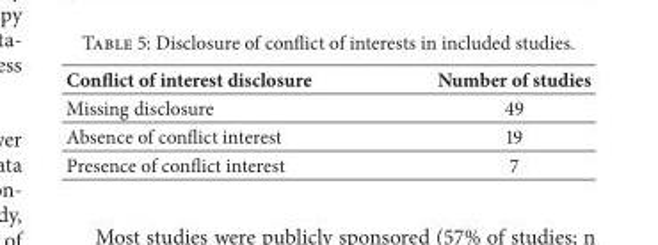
<table><thead><tr><td>Conflict of interest disclosure</td><td>Number of studies</td></tr></thead><tbody><tr><td>Missing disclosure</td><td>49</td></tr><tr><td>Absence of conflict interest</td><td>19</td></tr><tr><td>Presence of conflict interest</td><td>7</td></tr></tbody></table>